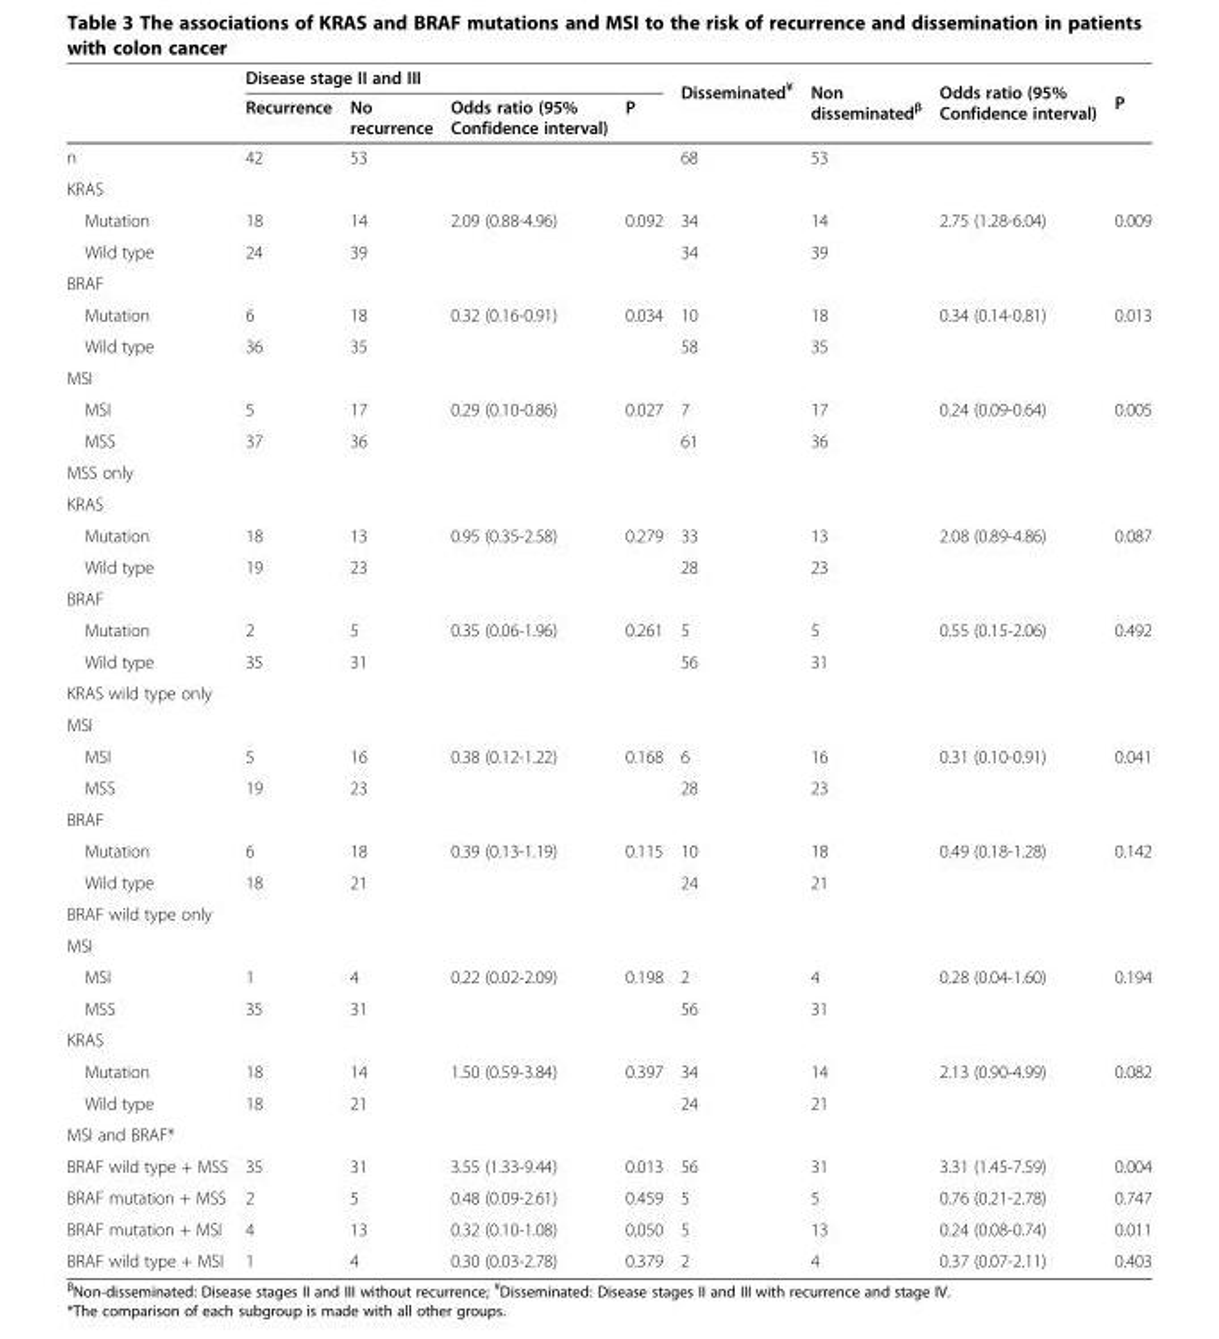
<table><thead><tr><td rowspan="2"></td><td colspan="4">Disease stage II and III</td><td rowspan="2">Disseminated<sup>¥</sup></td><td rowspan="2">Non disseminated<sup>β</sup></td><td rowspan="2">Odds ratio (95% Confidence interval)</td><td rowspan="2">P</td></tr><tr><td>Recurrence</td><td>No recurrence</td><td>Odds ratio (95% Confidence interval)</td><td>P</td></tr></thead><tbody><tr><td>n</td><td>42</td><td>53</td><td></td><td></td><td>68</td><td>53</td><td></td><td></td></tr><tr><td colspan="9">KRAS</td></tr><tr><td>Mutation</td><td>18</td><td>14</td><td>2.09 (0.88-4.96)</td><td>0.092</td><td>34</td><td>14</td><td>2.75 (1.28-6.04)</td><td>0.009</td></tr><tr><td>Wild type</td><td>24</td><td>39</td><td></td><td></td><td>34</td><td>39</td><td></td><td></td></tr><tr><td colspan="9">BRAF</td></tr><tr><td>Mutation</td><td>6</td><td>18</td><td>0.32 (0.16-0.91)</td><td>0.034</td><td>10</td><td>18</td><td>0.34 (0.14-0.81)</td><td>0.013</td></tr><tr><td>Wild type</td><td>36</td><td>35</td><td></td><td></td><td>58</td><td>35</td><td></td><td></td></tr><tr><td colspan="9">MSI</td></tr><tr><td>MSI</td><td>5</td><td>17</td><td>0.29 (0.10-0.86)</td><td>0.027</td><td>7</td><td>17</td><td>0.24 (0.09-0.64)</td><td>0.005</td></tr><tr><td>MSS</td><td>37</td><td>36</td><td></td><td></td><td>61</td><td>36</td><td></td><td></td></tr><tr><td colspan="9">MSS only</td></tr><tr><td colspan="9">KRAS</td></tr><tr><td>Mutation</td><td>18</td><td>13</td><td>0.95 (0.35-2.58)</td><td>0.279</td><td>33</td><td>13</td><td>2.08 (0.89-4.86)</td><td>0.087</td></tr><tr><td>Wild type</td><td>19</td><td>23</td><td></td><td></td><td>28</td><td>23</td><td></td><td></td></tr><tr><td colspan="9">BRAF</td></tr><tr><td>Mutation</td><td>2</td><td>5</td><td>0.35 (0.06-1.96)</td><td>0.261</td><td>5</td><td>5</td><td>0.55 (0.15-2.06)</td><td>0.492</td></tr><tr><td>Wild type</td><td>35</td><td>31</td><td></td><td></td><td>56</td><td>31</td><td></td><td></td></tr><tr><td colspan="9">KRAS wild type only</td></tr><tr><td colspan="9">MSI</td></tr><tr><td>MSI</td><td>5</td><td>16</td><td>0.38 (0.12-1.22)</td><td>0.168</td><td>6</td><td>16</td><td>0.31 (0.10-0.91)</td><td>0.041</td></tr><tr><td>MSS</td><td>19</td><td>23</td><td></td><td></td><td>28</td><td>23</td><td></td><td></td></tr><tr><td colspan="9">BRAF</td></tr><tr><td>Mutation</td><td>6</td><td>18</td><td>0.39 (0.13-1.19)</td><td>0.115</td><td>10</td><td>18</td><td>0.49 (0.18-1.28)</td><td>0.142</td></tr><tr><td>Wild type</td><td>18</td><td>21</td><td></td><td></td><td>24</td><td>21</td><td></td><td></td></tr><tr><td colspan="9">BRAF wild type only</td></tr><tr><td colspan="9">MSI</td></tr><tr><td>MSI</td><td>1</td><td>4</td><td>0.22 (0.02-2.09)</td><td>0.198</td><td>2</td><td>4</td><td>0.28 (0.04-1.60)</td><td>0.194</td></tr><tr><td>MSS</td><td>35</td><td>31</td><td></td><td></td><td>56</td><td>31</td><td></td><td></td></tr><tr><td colspan="9">KRAS</td></tr><tr><td>Mutation</td><td>18</td><td>14</td><td>1.50 (0.59-3.84)</td><td>0.397</td><td>34</td><td>14</td><td>2.13 (0.90-4.99)</td><td>0.082</td></tr><tr><td>Wild type</td><td>18</td><td>21</td><td></td><td></td><td>24</td><td>21</td><td></td><td></td></tr><tr><td colspan="9">MSI and BRAF*</td></tr><tr><td>BRAF wild type + MSS</td><td>35</td><td>31</td><td>3.55 (1.33-9.44)</td><td>0.013</td><td>56</td><td>31</td><td>3.31 (1.45-7.59)</td><td>0.004</td></tr><tr><td>BRAF mutation + MSS</td><td>2</td><td>5</td><td>0.48 (0.09-2.61)</td><td>0.459</td><td>5</td><td>5</td><td>0.76 (0.21-2.78)</td><td>0.747</td></tr><tr><td>BRAF mutation + MSI</td><td>4</td><td>13</td><td>0.32 (0.10-1.08)</td><td>0,050</td><td>5</td><td>13</td><td>0.24 (0.08-0.74)</td><td>0.011</td></tr><tr><td>BRAF wild type + MSI</td><td>1</td><td>4</td><td>0.30 (0.03-2.78)</td><td>0.379</td><td>2</td><td>4</td><td>0.37 (0.07-2.11)</td><td>0.403</td></tr></tbody></table>